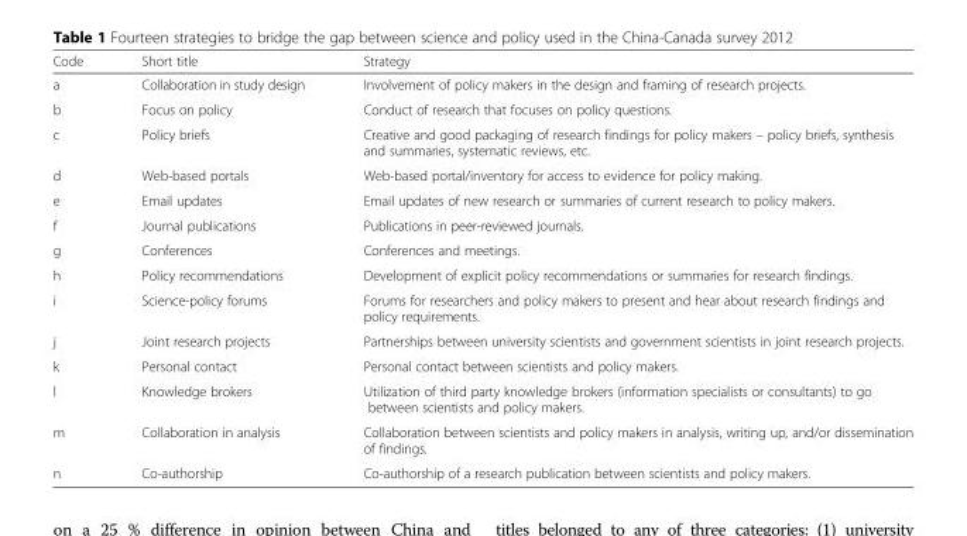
<table><thead><tr><td>Code</td><td>Short title</td><td>Strategy</td></tr></thead><tbody><tr><td>a</td><td>Collaboration in study design</td><td>Involvement of policy makers in the design and framing of research projects.</td></tr><tr><td>b</td><td>Focus on policy</td><td>Conduct of research that focuses on policy questions.</td></tr><tr><td>c</td><td>Policy briefs</td><td>Creative and good packaging of research findings for policy makers – policy briefs, synthesis and summaries, systematic reviews, etc.</td></tr><tr><td>d</td><td>Web-based portals</td><td>Web-based portal/inventory for access to evidence for policy making.</td></tr><tr><td>e</td><td>Email updates</td><td>Email updates of new research or summaries of current research to policy makers.</td></tr><tr><td>f</td><td>Journal publications</td><td>Publications in peer-reviewed journals.</td></tr><tr><td>g</td><td>Conferences</td><td>Conferences and meetings.</td></tr><tr><td>h</td><td>Policy recommendations</td><td>Development of explicit policy recommendations or summaries for research findings.</td></tr><tr><td>i</td><td>Science-policy forums</td><td>Forums for researchers and policy makers to present and hear about research findings and policy requirements.</td></tr><tr><td>j</td><td>Joint research projects</td><td>Partnerships between university scientists and government scientists in joint research projects.</td></tr><tr><td>k</td><td>Personal contact</td><td>Personal contact between scientists and policy makers.</td></tr><tr><td>l</td><td>Knowledge brokers</td><td>Utilization of third party knowledge brokers (information specialists or consultants) to go between scientists and policy makers.</td></tr><tr><td>m</td><td>Collaboration in analysis</td><td>Collaboration between scientists and policy makers in analysis, writing up, and/or dissemination of findings.</td></tr><tr><td>n</td><td>Co-authorship</td><td>Co-authorship of a research publication between scientists and policy makers.</td></tr></tbody></table>